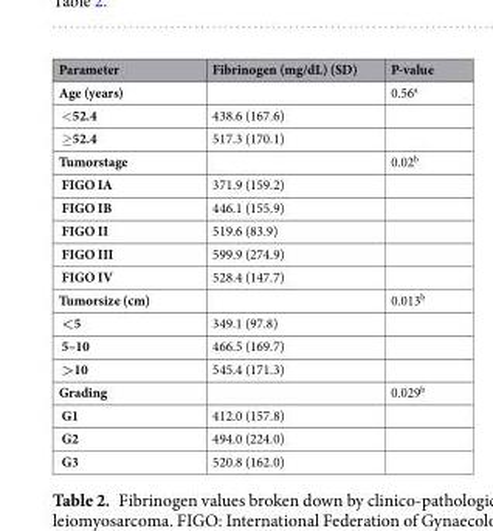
<table><thead><tr><td>Parameter</td><td>Fibrinogen (mg/dL) (SD)</td><td>P-value</td></tr></thead><tbody><tr><td>Age (years)</td><td></td><td>0.56<sup>a</sup></td></tr><tr><td>&lt;52.4</td><td>438.6 (167.6)</td><td></td></tr><tr><td>≥52.4</td><td>517.3 (170.1)</td><td></td></tr><tr><td>Tumorstage</td><td></td><td>0.02<sup>b</sup></td></tr><tr><td>FIGO IA</td><td>371.9 (159.2)</td><td></td></tr><tr><td>FIGO IB</td><td>446.1 (155.9)</td><td></td></tr><tr><td>FIGO II</td><td>519.6 (83.9)</td><td></td></tr><tr><td>FIGO III</td><td>599.9 (274.9)</td><td></td></tr><tr><td>FIGO IV</td><td>528.4 (147.7)</td><td></td></tr><tr><td>Tumorsize (cm)</td><td></td><td>0.013<sup>b</sup></td></tr><tr><td>&lt;5</td><td>349.1 (97.8)</td><td></td></tr><tr><td>5–10</td><td>466.5 (169.7)</td><td></td></tr><tr><td>&gt;10</td><td>545.4 (171.3)</td><td></td></tr><tr><td>Grading</td><td></td><td>0.029<sup>b</sup></td></tr><tr><td>G1</td><td>412.0 (157.8)</td><td></td></tr><tr><td>G2</td><td>494.0 (224.0)</td><td></td></tr><tr><td>G3</td><td>520.8 (162.0)</td><td></td></tr></tbody></table>